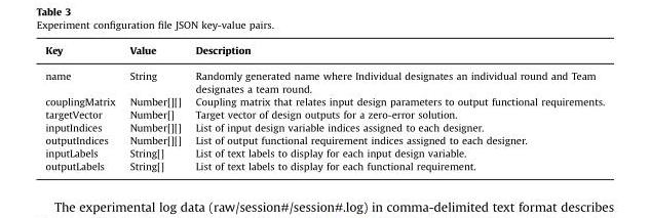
<table><thead><tr><td>Key</td><td>Value</td><td>Description</td></tr></thead><tbody><tr><td>name</td><td>String</td><td>Randomly generated name where Individual designates an individual round and Team designates a team round.</td></tr><tr><td>couplingMatrix</td><td>Number[][]</td><td>Coupling matrix that relates input design parameters to output functional requirements.</td></tr><tr><td>targetVector</td><td>Number[]</td><td>Target vector of design outputs for a zero-error solution.</td></tr><tr><td>inputIndices</td><td>Number[][]</td><td>List of input design variable indices assigned to each designer.</td></tr><tr><td>outputIndices</td><td>Number[][]</td><td>List of output functional requirement indices assigned to each designer.</td></tr><tr><td>inputLabels</td><td>String[]</td><td>List of text labels to display for each input design variable.</td></tr><tr><td>outputLabels</td><td>String[]</td><td>List of text labels to display for each functional requirement.</td></tr></tbody></table>